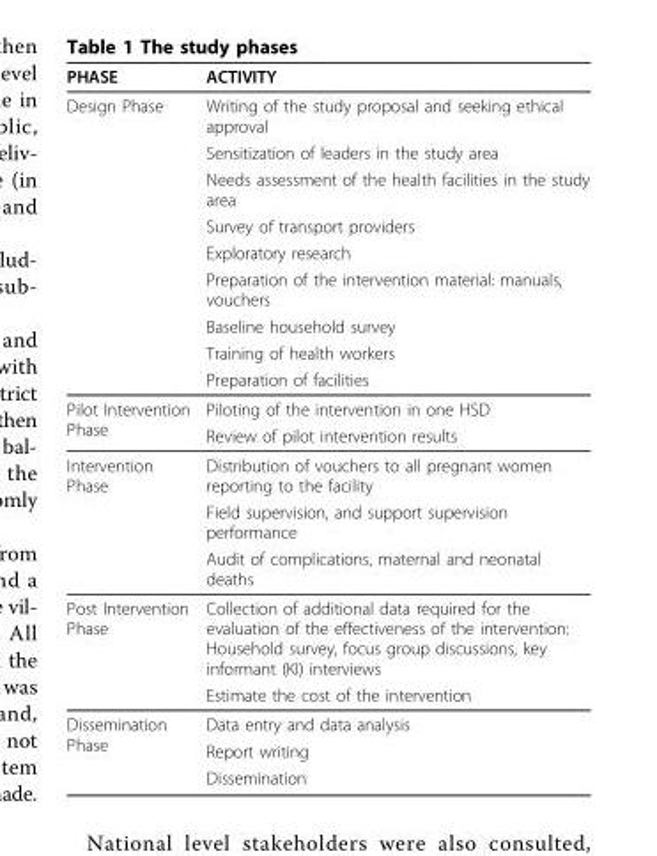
<table><thead><tr><td>PHASE</td><td>ACTIVITY</td></tr></thead><tbody><tr><td rowspan="9">Design Phase</td><td>Writing of the study proposal and seeking ethical approval</td></tr><tr><td>Sensitization of leaders in the study area</td></tr><tr><td>Needs assessment of the health facilities in the study area</td></tr><tr><td>Survey of transport providers</td></tr><tr><td>Exploratory research</td></tr><tr><td>Preparation of the intervention material: manuals, vouchers</td></tr><tr><td>Baseline household survey</td></tr><tr><td>Training of health workers</td></tr><tr><td>Preparation of facilities</td></tr><tr><td rowspan="2">Pilot Intervention Phase</td><td>Piloting of the intervention in one HSD</td></tr><tr><td>Review of pilot intervention results</td></tr><tr><td rowspan="3">Intervention Phase</td><td>Distribution of vouchers to all pregnant women reporting to the facility</td></tr><tr><td>Field supervision, and support supervision performance</td></tr><tr><td>Audit of complications, maternal and neonatal deaths</td></tr><tr><td rowspan="2">Post Intervention Phase</td><td>Collection of additional data required for the evaluation of the effectiveness of the intervention: Household survey, focus group discussions, key informant (KI) interviews</td></tr><tr><td>Estimate the cost of the intervention</td></tr><tr><td rowspan="3">Dissemination Phase</td><td>Data entry and data analysis</td></tr><tr><td>Report writing</td></tr><tr><td>Dissemination</td></tr></tbody></table>